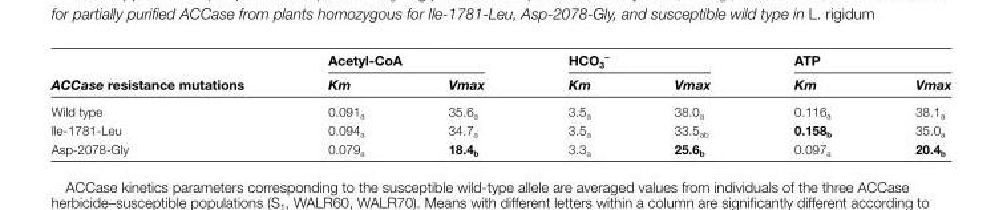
<table><thead><tr><td rowspan="2">ACCase resistance mutations</td><td colspan="2">Acetyl-CoA</td><td colspan="2">HCO<sub>3</sub> <sup>−</sup></td><td colspan="2">ATP</td></tr><tr><td>Km</td><td>Vmax</td><td>Km</td><td>Vmax</td><td>Km</td><td>Vmax</td></tr></thead><tbody><tr><td>Wild type</td><td>0.091<sub>a</sub></td><td>35.6<sub>a</sub></td><td>3.5<sub>a</sub></td><td>38.0<sub>a</sub></td><td>0.116<sub>a</sub></td><td>38.1<sub>a</sub></td></tr><tr><td>Ile-1781-Leu</td><td>0.094<sub>a</sub></td><td>34.7<sub>a</sub></td><td>3.5<sub>a</sub></td><td>33.5<sub>ab</sub></td><td>0.158<sub>b</sub></td><td>35.0<sub>a</sub></td></tr><tr><td>Asp-2078-Gly</td><td>0.079<sub>a</sub></td><td>18.4<sub>b</sub></td><td>3.3<sub>a</sub></td><td>25.6<sub>b</sub></td><td>0.097<sub>a</sub></td><td>20.4<sub>b</sub></td></tr></tbody></table>